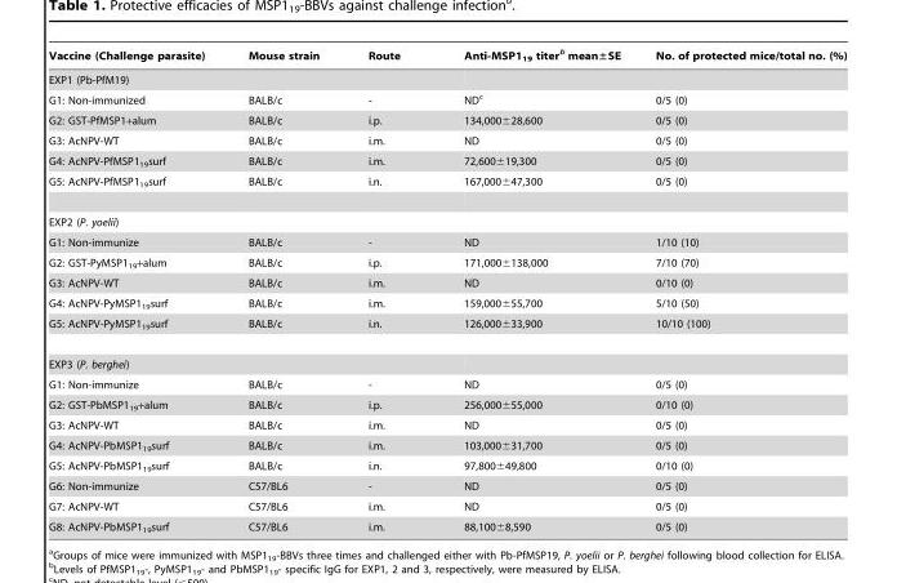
<table><thead><tr><td>Vaccine (Challenge parasite)</td><td>Mouse strain</td><td>Route</td><td>Anti-MSP1<sub>19</sub> titer<sup>b</sup> mean±SE</td><td>No. of protected mice/total no. (%)</td></tr></thead><tbody><tr><td colspan="5">EXP1 (Pb-PfM19)</td></tr><tr><td>G1: Non-immunized</td><td>BALB/c</td><td>-</td><td>ND<sup>c</sup></td><td>0/5 (0)</td></tr><tr><td>G2: GST-PfMSP1+alum</td><td>BALB/c</td><td>i.p.</td><td>134,000±28,600</td><td>0/5 (0)</td></tr><tr><td>G3: AcNPV-WT</td><td>BALB/c</td><td>i.m.</td><td>ND</td><td>0/5 (0)</td></tr><tr><td>G4: AcNPV-PfMSP1<sub>19</sub>surf</td><td>BALB/c</td><td>i.m.</td><td>72,600±19,300</td><td>0/5 (0)</td></tr><tr><td>G5: AcNPV-PfMSP1<sub>19</sub>surf</td><td>BALB/c</td><td>i.n.</td><td>167,000±47,300</td><td>0/5 (0)</td></tr><tr><td colspan="5">EXP2 (P. yoelii)</td></tr><tr><td>G1: Non-immunize</td><td>BALB/c</td><td>-</td><td>ND</td><td>1/10 (10)</td></tr><tr><td>G2: GST-PyMSP1<sub>19</sub>+alum</td><td>BALB/c</td><td>i.p.</td><td>171,000±138,000</td><td>7/10 (70)</td></tr><tr><td>G3: AcNPV-WT</td><td>BALB/c</td><td>i.m.</td><td>ND</td><td>0/10 (0)</td></tr><tr><td>G4: AcNPV-PyMSP1<sub>19</sub>surf</td><td>BALB/c</td><td>i.m.</td><td>159,000±55,700</td><td>5/10 (50)</td></tr><tr><td>G5: AcNPV-PyMSP1<sub>19</sub>surf</td><td>BALB/c</td><td>i.n.</td><td>126,000±33,900</td><td>10/10 (100)</td></tr><tr><td colspan="5">EXP3 (P. berghei)</td></tr><tr><td>G1: Non-immunize</td><td>BALB/c</td><td>-</td><td>ND</td><td>0/5 (0)</td></tr><tr><td>G2: GST-PbMSP1<sub>19</sub>+alum</td><td>BALB/c</td><td>i.p.</td><td>256,000±55,000</td><td>0/10 (0)</td></tr><tr><td>G3: AcNPV-WT</td><td>BALB/c</td><td>i.m.</td><td>ND</td><td>0/5 (0)</td></tr><tr><td>G4: AcNPV-PbMSP1<sub>19</sub>surf</td><td>BALB/c</td><td>i.m.</td><td>103,000±31,700</td><td>0/5 (0)</td></tr><tr><td>G5: AcNPV-PbMSP1<sub>19</sub>surf</td><td>BALB/c</td><td>i.n.</td><td>97,800±49,800</td><td>0/10 (0)</td></tr><tr><td>G6: Non-immunize</td><td>C57/BL6</td><td>-</td><td>ND</td><td>0/5 (0)</td></tr><tr><td>G7: AcNPV-WT</td><td>C57/BL6</td><td>i.m.</td><td>ND</td><td>0/5 (0)</td></tr><tr><td>G8: AcNPV-PbMSP1<sub>19</sub>surf</td><td>C57/BL6</td><td>i.m.</td><td>88,100±8,590</td><td>0/5 (0)</td></tr></tbody></table>